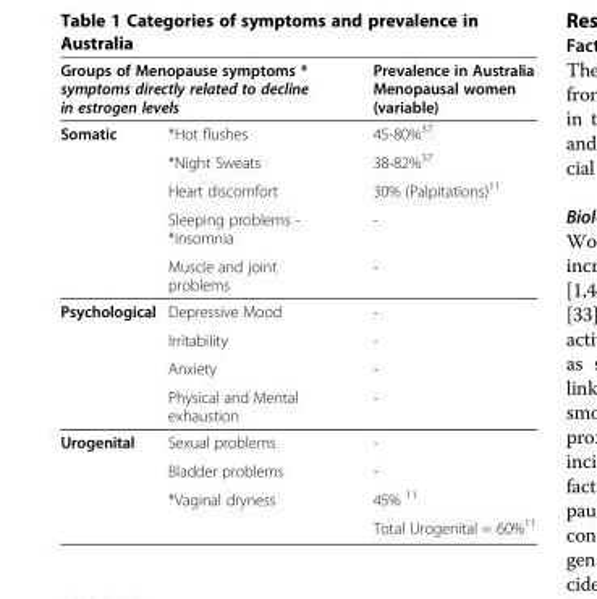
<table><thead><tr><td colspan="2">Groups of Menopause symptoms * symptoms directly related to decline in estrogen levels</td><td rowspan="2">Prevalence in Australia Menopausal women (variable) 45-80%<sup>37</sup></td></tr><tr><td>Somatic</td><td>*Hot flushes</td></tr></thead><tbody><tr><td></td><td>*Night Sweats</td><td>38-82%<sup>37</sup></td></tr><tr><td></td><td>Heart discomfort</td><td>30% (Palpitations)<sup>11</sup></td></tr><tr><td></td><td>Sleeping problems - *insomnia</td><td>-</td></tr><tr><td></td><td>Muscle and joint problems</td><td>-</td></tr><tr><td rowspan="4">Psychological</td><td>Depressive Mood</td><td>-</td></tr><tr><td>Irritability</td><td>-</td></tr><tr><td>Anxiety</td><td>-</td></tr><tr><td>Physical and Mental exhaustion</td><td>-</td></tr><tr><td rowspan="4">Urogenital</td><td>Sexual problems</td><td>-</td></tr><tr><td>Bladder problems</td><td>-</td></tr><tr><td>*Vaginal dryness</td><td>45% <sup>11</sup></td></tr><tr><td></td><td>Total Urogenital = 60%<sup>11</sup></td></tr></tbody></table>